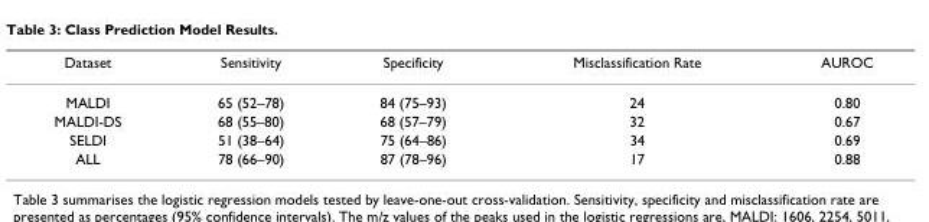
<table><thead><tr><td>Dataset</td><td>Sensitivity</td><td>Specificity</td><td>Misclassification Rate</td><td>AUROC</td></tr></thead><tbody><tr><td>MALDI</td><td>65 (52–78)</td><td>84 (75–93)</td><td>24</td><td>0.80</td></tr><tr><td>MALDI-DS</td><td>68 (55–80)</td><td>68 (57–79)</td><td>32</td><td>0.67</td></tr><tr><td>SELDI</td><td>51 (38–64)</td><td>75 (64–86)</td><td>34</td><td>0.69</td></tr><tr><td>ALL</td><td>78 (66–90)</td><td>87 (78–96)</td><td>17</td><td>0.88</td></tr></tbody></table>